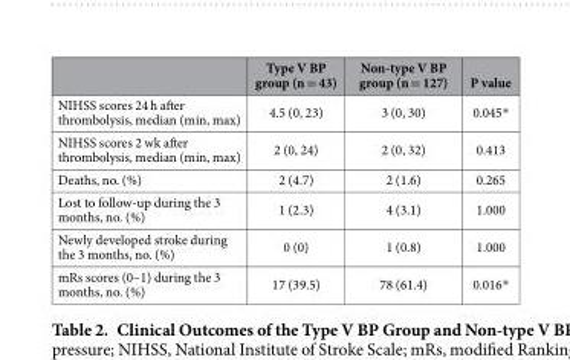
<table><thead><tr><td></td><td>Type V BP group (n = 43)</td><td>Non-type V BP group (n = 127)</td><td>P value</td></tr></thead><tbody><tr><td>NIHSS scores 24 h after thrombolysis, median (min, max)</td><td>4.5 (0, 23)</td><td>3 (0, 30)</td><td>0.045*</td></tr><tr><td>NIHSS scores 2 wk after thrombolysis, median (min, max)</td><td>2 (0, 24)</td><td>2 (0, 32)</td><td>0.413</td></tr><tr><td>Deaths, no. (%)</td><td>2 (4.7)</td><td>2 (1.6)</td><td>0.265</td></tr><tr><td>Lost to follow-up during the 3 months, no. (%)</td><td>1 (2.3)</td><td>4 (3.1)</td><td>1.000</td></tr><tr><td>Newly developed stroke during the 3 months, no. (%)</td><td>0 (0)</td><td>1 (0.8)</td><td>1.000</td></tr><tr><td>mRs scores (0–1) during the 3 months, no. (%)</td><td>17 (39.5)</td><td>78 (61.4)</td><td>0.016*</td></tr></tbody></table>